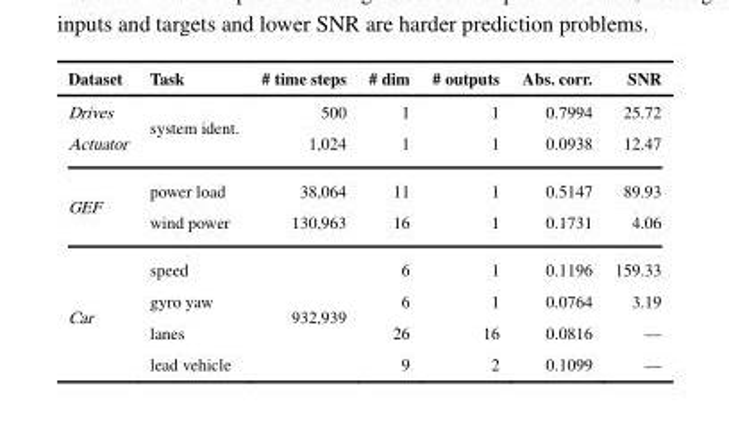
<table><thead><tr><td>Dataset</td><td>Task</td><td># time steps</td><td># dim</td><td># outputs</td><td>Abs. corr.</td><td>SNR</td></tr></thead><tbody><tr><td>Drives</td><td rowspan="2">system ident.</td><td>500</td><td>1</td><td>1</td><td>0.7994</td><td>25.72</td></tr><tr><td>Actuator</td><td>1,024</td><td>1</td><td>1</td><td>0.0938</td><td>12.47</td></tr><tr><td rowspan="2">GEF</td><td>power load</td><td>38,064</td><td>11</td><td>1</td><td>0.5147</td><td>89.93</td></tr><tr><td>wind power</td><td>130,963</td><td>16</td><td>1</td><td>0.1731</td><td>4.06</td></tr><tr><td rowspan="4">Car</td><td>speed</td><td rowspan="4">932,939</td><td>6</td><td>1</td><td>0.1196</td><td>159.33</td></tr><tr><td>gyro yaw</td><td>6</td><td>1</td><td>0.0764</td><td>3.19</td></tr><tr><td>lanes</td><td>26</td><td>16</td><td>0.0816</td><td>—</td></tr><tr><td>lead vehicle</td><td>9</td><td>2</td><td>0.1099</td><td>—</td></tr></tbody></table>